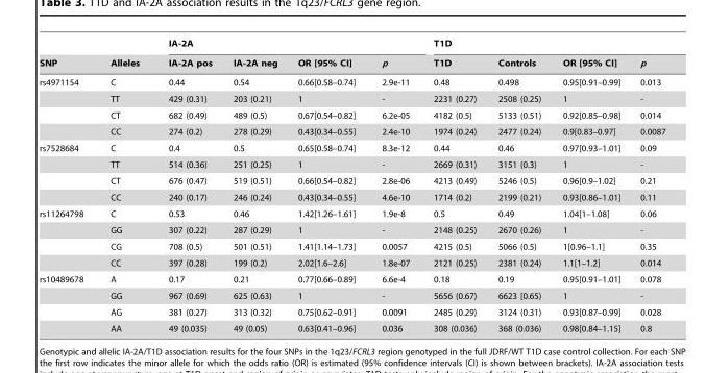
<table><thead><tr><td rowspan="2">SNP</td><td rowspan="2">Alleles</td><td colspan="4">IA-2A</td><td colspan="4">T1D</td></tr><tr><td>IA-2A pos</td><td>IA-2A neg</td><td>OR [95% CI]</td><td>p</td><td>T1D</td><td>Controls</td><td>OR [95% CI]</td><td>p</td></tr></thead><tbody><tr><td rowspan="4">rs4971154</td><td>C</td><td>0.44</td><td>0.54</td><td>0.66[0.58–0.74]</td><td>2.9e-11</td><td>0.48</td><td>0.498</td><td>0.95[0.91–0.99]</td><td>0.013</td></tr><tr><td>TT</td><td>429 (0.31)</td><td>203 (0.21)</td><td>1</td><td>-</td><td>2231 (0.27)</td><td>2508 (0.25)</td><td>1</td><td>-</td></tr><tr><td>CT</td><td>682 (0.49)</td><td>489 (0.5)</td><td>0.67[0.54–0.82]</td><td>6.2e-05</td><td>4182 (0.5)</td><td>5133 (0.51)</td><td>0.92[0.85–0.98]</td><td>0.014</td></tr><tr><td>CC</td><td>274 (0.2)</td><td>278 (0.29)</td><td>0.43[0.34–0.55]</td><td>2.4e-10</td><td>1974 (0.24)</td><td>2477 (0.24)</td><td>0.9[0.83–0.97]</td><td>0.0087</td></tr><tr><td rowspan="4">rs7528684</td><td>C</td><td>0.4</td><td>0.5</td><td>0.65[0.58–0.74]</td><td>8.3e-12</td><td>0.44</td><td>0.46</td><td>0.97[0.93–1.01]</td><td>0.09</td></tr><tr><td>TT</td><td>514 (0.36)</td><td>251 (0.25)</td><td>1</td><td>-</td><td>2669 (0.31)</td><td>3151 (0.3)</td><td>1</td><td>-</td></tr><tr><td>CT</td><td>676 (0.47)</td><td>519 (0.51)</td><td>0.66[0.54–0.82]</td><td>2.8e-06</td><td>4213 (0.49)</td><td>5246 (0.5)</td><td>0.96[0.9–1.02]</td><td>0.21</td></tr><tr><td>CC</td><td>240 (0.17)</td><td>246 (0.24)</td><td>0.43[0.34–0.55]</td><td>4.6e-10</td><td>1714 (0.2)</td><td>2199 (0.21)</td><td>0.93[0.86–1.01]</td><td>0.11</td></tr><tr><td rowspan="4">rs11264798</td><td>C</td><td>0.53</td><td>0.46</td><td>1.42[1.26–1.61]</td><td>1.9e-8</td><td>0.5</td><td>0.49</td><td>1.04[1–1.08]</td><td>0.06</td></tr><tr><td>GG</td><td>307 (0.22)</td><td>287 (0.29)</td><td>1</td><td>-</td><td>2148 (0.25)</td><td>2670 (0.26)</td><td>1</td><td>-</td></tr><tr><td>CG</td><td>708 (0.5)</td><td>501 (0.51)</td><td>1.41[1.14–1.73]</td><td>0.0057</td><td>4215 (0.5)</td><td>5066 (0.5)</td><td>1[0.96–1.1]</td><td>0.35</td></tr><tr><td>CC</td><td>397 (0.28)</td><td>199 (0.2)</td><td>2.02[1.6–2.6]</td><td>1.8e-07</td><td>2121 (0.25)</td><td>2381 (0.24)</td><td>1.1[1–1.2]</td><td>0.014</td></tr><tr><td rowspan="4">rs10489678</td><td>A</td><td>0.17</td><td>0.21</td><td>0.77[0.66–0.89]</td><td>6.6e-4</td><td>0.18</td><td>0.19</td><td>0.95[0.91–1.01]</td><td>0.078</td></tr><tr><td>GG</td><td>967 (0.69)</td><td>625 (0.63)</td><td>1</td><td>-</td><td>5656 (0.67)</td><td>6623 [0.65)</td><td>1</td><td>-</td></tr><tr><td>AG</td><td>381 (0.27)</td><td>313 (0.32)</td><td>0.75[0.62–0.91]</td><td>0.0091</td><td>2485 (0.29)</td><td>3124 (0.31)</td><td>0.93[0.87–0.99]</td><td>0.028</td></tr><tr><td>AA</td><td>49 (0.035)</td><td>49 (0.05)</td><td>0.63[0.41–0.96]</td><td>0.036</td><td>308 (0.036)</td><td>368 (0.036)</td><td>0.98[0.84–1.15]</td><td>0.8</td></tr></tbody></table>